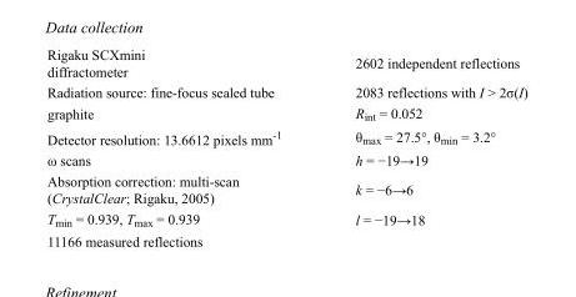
<table><tbody><tr><td>Rigaku SCXmini diffractometer</td><td>2602 independent reflections</td></tr><tr><td>Radiation source: fine-focus sealed tube</td><td>2083 reflections with I &gt; 2σ(I)</td></tr><tr><td>graphite</td><td>R<sub>int</sub> = 0.052</td></tr><tr><td>Detector resolution: 13.6612 pixels mm<sup>-1</sup></td><td>θ<sub>max</sub> = 27.5°, θ<sub>min</sub> = 3.2°</td></tr><tr><td>ω scans</td><td>h = −19→19</td></tr><tr><td>Absorption correction: multi-scan (CrystalClear; Rigaku, 2005)</td><td>k = −6→6</td></tr><tr><td>T<sub>min</sub> = 0.939, T<sub>max</sub> = 0.939</td><td>l = −19→18</td></tr><tr><td>11166 measured reflections</td><td></td></tr></tbody></table>